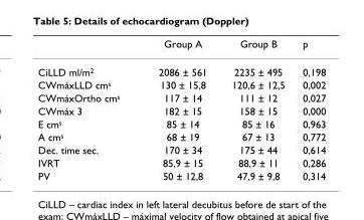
<table><thead><tr><td></td><td>Group A</td><td>Group B</td><td>p</td></tr></thead><tbody><tr><td>CiLLD ml/m<sup>2</sup></td><td>2086 ± 561</td><td>2235 ± 495</td><td>0,198</td></tr><tr><td>CWmáxLLD cm<sup>s</sup></td><td>130 ± 15,8</td><td>120,6 ± 12,5</td><td>0,002</td></tr><tr><td>CWmáxOrtho cm<sup>s</sup></td><td>117 ± 14</td><td>111 ± 12</td><td>0,027</td></tr><tr><td>CWmáx 3</td><td>182 ± 15</td><td>158 ± 15</td><td>0,000</td></tr><tr><td>E cm<sup>s</sup></td><td>85 ± 14</td><td>85 ± 16</td><td>0,963</td></tr><tr><td>A cm<sup>s</sup></td><td>68 ± 19</td><td>67 ± 13</td><td>0,772</td></tr><tr><td>Dec. time sec.</td><td>170 ± 34</td><td>175 ± 44</td><td>0,614</td></tr><tr><td>IVRT</td><td>85,9 ± 15</td><td>88,9 ± 11</td><td>0,286</td></tr><tr><td>PV</td><td>50 ± 12,8</td><td>47,9 ± 9,8</td><td>0,314</td></tr></tbody></table>